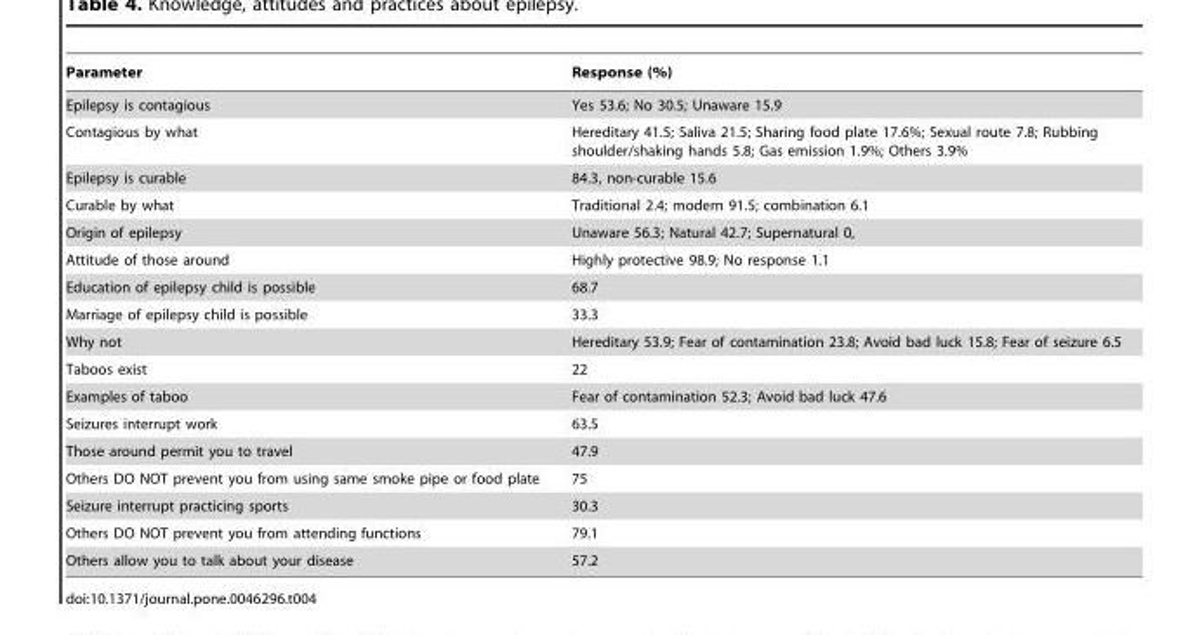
<table><thead><tr><td>Parameter</td><td>Response (%)</td></tr></thead><tbody><tr><td>Epilepsy is contagious</td><td>Yes 53.6; No 30.5; Unaware 15.9</td></tr><tr><td>Contagious by what</td><td>Hereditary 41.5; Saliva 21.5; Sharing food plate 17.6%; Sexual route 7.8; Rubbing shoulder/shaking hands 5.8; Gas emission 1.9%; Others 3.9%</td></tr><tr><td>Epilepsy is curable</td><td>84.3, non-curable 15.6</td></tr><tr><td>Curable by what</td><td>Traditional 2.4; modern 91.5; combination 6.1</td></tr><tr><td>Origin of epilepsy</td><td>Unaware 56.3; Natural 42.7; Supernatural 0,</td></tr><tr><td>Attitude of those around</td><td>Highly protective 98.9; No response 1.1</td></tr><tr><td>Education of epilepsy child is possible</td><td>68.7</td></tr><tr><td>Marriage of epilepsy child is possible</td><td>33.3</td></tr><tr><td>Why not</td><td>Hereditary 53.9; Fear of contamination 23.8; Avoid bad luck 15.8; Fear of seizure 6.5</td></tr><tr><td>Taboos exist</td><td>22</td></tr><tr><td>Examples of taboo</td><td>Fear of contamination 52.3; Avoid bad luck 47.6</td></tr><tr><td>Seizures interrupt work</td><td>63.5</td></tr><tr><td>Those around permit you to travel</td><td>47.9</td></tr><tr><td>Others DO NOT prevent you from using same smoke pipe or food plate</td><td>75</td></tr><tr><td>Seizure interrupt practicing sports</td><td>30.3</td></tr><tr><td>Others DO NOT prevent you from attending functions</td><td>79.1</td></tr><tr><td>Others allow you to talk about your disease</td><td>57.2</td></tr></tbody></table>